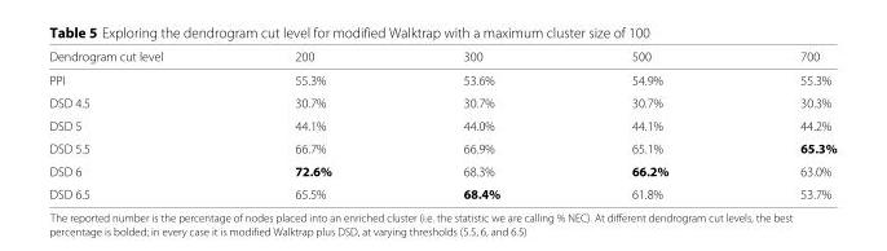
<table><thead><tr><td>Dendrogram cut level</td><td>200</td><td>300</td><td>500</td><td>700</td></tr></thead><tbody><tr><td>PPI</td><td>55.3%</td><td>53.6%</td><td>54.9%</td><td>55.3%</td></tr><tr><td>DSD 4.5</td><td>30.7%</td><td>30.7%</td><td>30.7%</td><td>30.3%</td></tr><tr><td>DSD 5</td><td>44.1%</td><td>44.0%</td><td>44.1%</td><td>44.2%</td></tr><tr><td>DSD 5.5</td><td>66.7%</td><td>66.9%</td><td>65.1%</td><td>65.3%</td></tr><tr><td>DSD 6</td><td>72.6%</td><td>68.3%</td><td>66.2%</td><td>63.0%</td></tr><tr><td>DSD 6.5</td><td>65.5%</td><td>68.4%</td><td>61.8%</td><td>53.7%</td></tr></tbody></table>